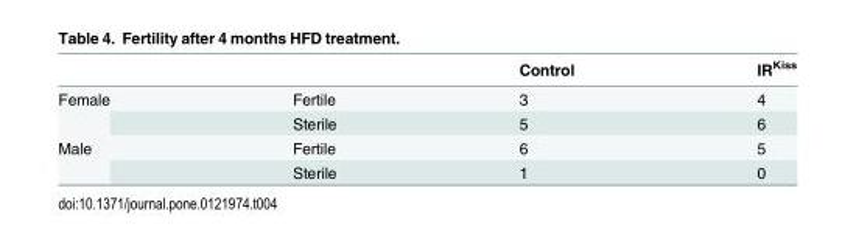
<table><thead><tr><td></td><td></td><td>Control</td><td>IR<sup>Kiss</sup></td></tr></thead><tbody><tr><td rowspan="2">Female</td><td>Fertile</td><td>3</td><td>4</td></tr><tr><td>Sterile</td><td>5</td><td>6</td></tr><tr><td rowspan="2">Male</td><td>Fertile</td><td>6</td><td>5</td></tr><tr><td>Sterile</td><td>1</td><td>0</td></tr></tbody></table>